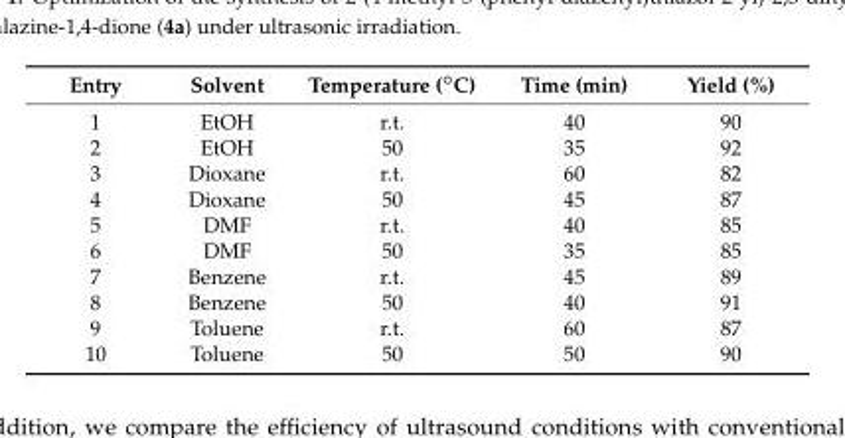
<table><thead><tr><td>Entry</td><td>Solvent</td><td>Temperature (◦C)</td><td>Time (min)</td><td>Yield (%)</td></tr></thead><tbody><tr><td>1</td><td>EtOH</td><td>r.t.</td><td>40</td><td>90</td></tr><tr><td>2</td><td>EtOH</td><td>50</td><td>35</td><td>92</td></tr><tr><td>3</td><td>Dioxane</td><td>r.t.</td><td>60</td><td>82</td></tr><tr><td>4</td><td>Dioxane</td><td>50</td><td>45</td><td>87</td></tr><tr><td>5</td><td>DMF</td><td>r.t.</td><td>40</td><td>85</td></tr><tr><td>6</td><td>DMF</td><td>50</td><td>35</td><td>85</td></tr><tr><td>7</td><td>Benzene</td><td>r.t.</td><td>45</td><td>89</td></tr><tr><td>8</td><td>Benzene</td><td>50</td><td>40</td><td>91</td></tr><tr><td>9</td><td>Toluene</td><td>r.t.</td><td>60</td><td>87</td></tr><tr><td>10</td><td>Toluene</td><td>50</td><td>50</td><td>90</td></tr></tbody></table>